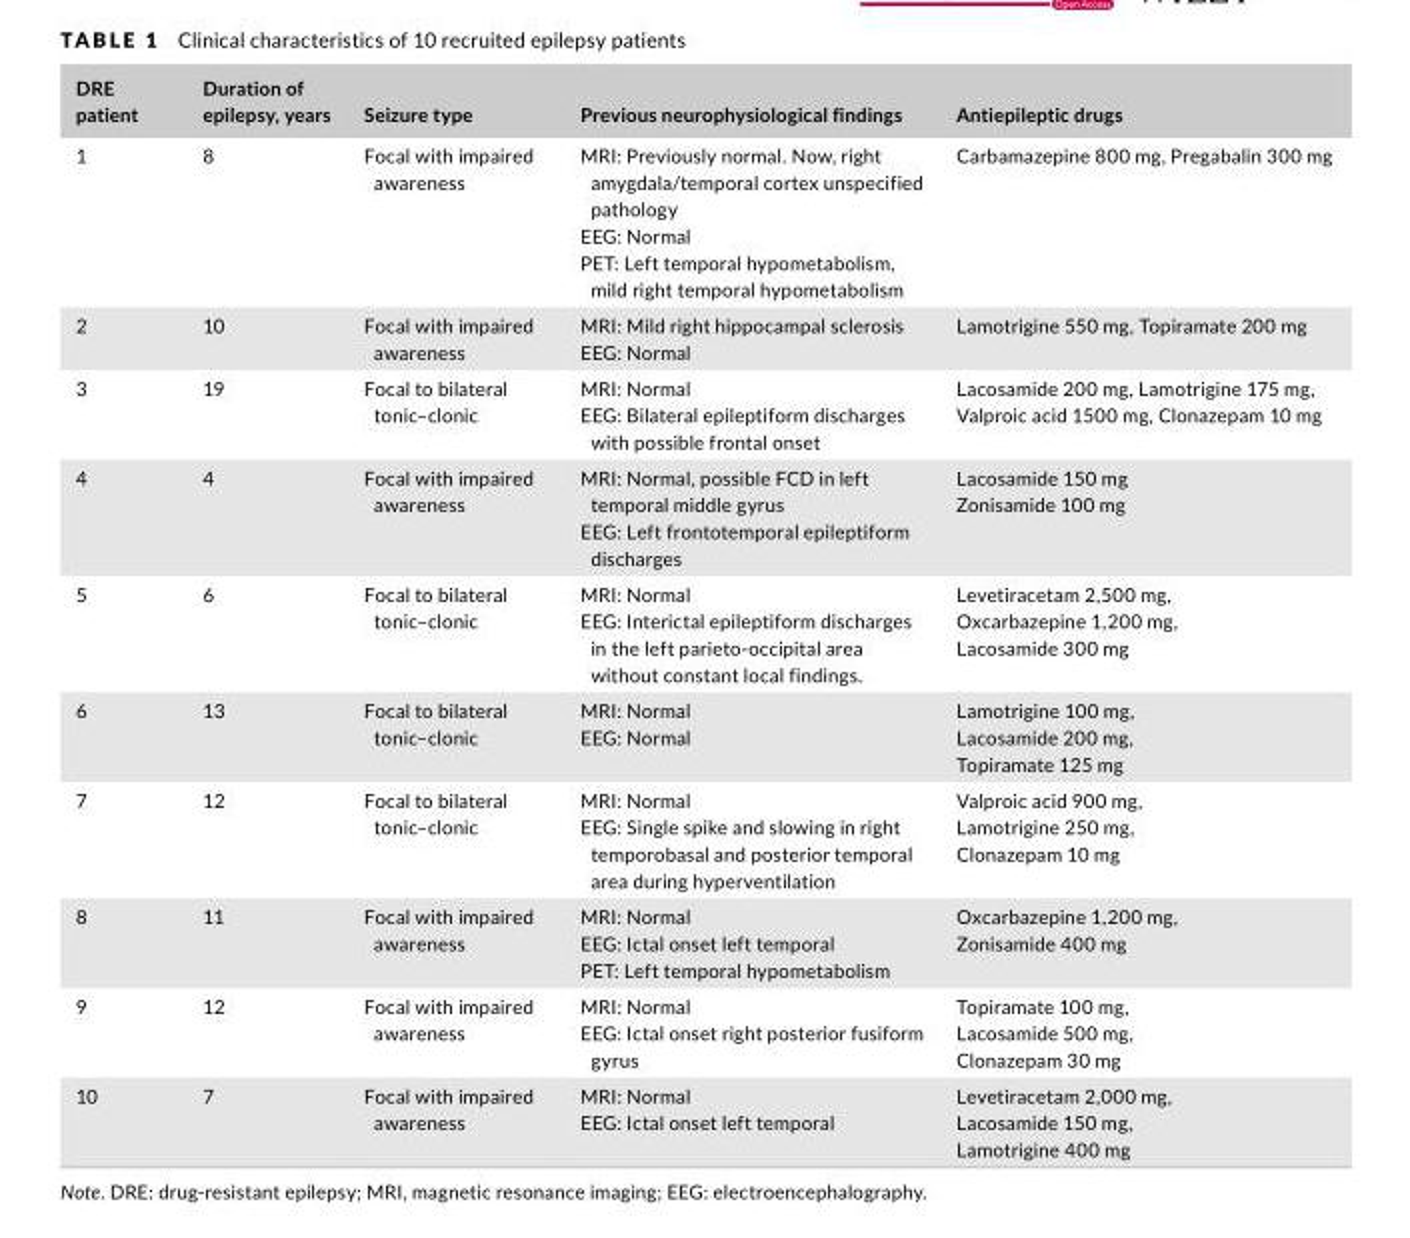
<table><thead><tr><td>DRE patient</td><td>Duration of epilepsy, years</td><td>Seizure type</td><td>Previous neurophysiological findings</td><td>Antiepileptic drugs</td></tr></thead><tbody><tr><td>1</td><td>8</td><td>Focal with impaired awareness</td><td>MRI: Previously normal. Now, right amygdala/temporal cortex unspecified pathology EEG: Normal PET: Left temporal hypometabolism, mild right temporal hypometabolism</td><td>Carbamazepine 800 mg, Pregabalin 300 mg</td></tr><tr><td>2</td><td>10</td><td>Focal with impaired awareness</td><td>MRI: Mild right hippocampal sclerosis EEG: Normal</td><td>Lamotrigine 550 mg, Topiramate 200 mg</td></tr><tr><td>3</td><td>19</td><td>Focal to bilateral tonic–clonic</td><td>MRI: Normal EEG: Bilateral epileptiform discharges with possible frontal onset</td><td>Lacosamide 200 mg, Lamotrigine 175 mg, Valproic acid 1500 mg, Clonazepam 10 mg</td></tr><tr><td>4</td><td>4</td><td>Focal with impaired awareness</td><td>MRI: Normal, possible FCD in left temporal middle gyrus EEG: Left frontotemporal epileptiform discharges</td><td>Lacosamide 150 mg Zonisamide 100 mg</td></tr><tr><td>5</td><td>6</td><td>Focal to bilateral tonic–clonic</td><td>MRI: Normal EEG: Interictal epileptiform discharges in the left parieto- occipital area without constant local findings.</td><td>Levetiracetam 2,500 mg, Oxcarbazepine 1,200 mg, Lacosamide 300 mg</td></tr><tr><td>6</td><td>13</td><td>Focal to bilateral tonic–clonic</td><td>MRI: Normal EEG: Normal</td><td>Lamotrigine 100 mg, Lacosamide 200 mg, Topiramate 125 mg</td></tr><tr><td>7</td><td>12</td><td>Focal to bilateral tonic–clonic</td><td>MRI: Normal EEG: Single spike and slowing in right temporobasal and posterior temporal area during hyperventilation</td><td>Valproic acid 900 mg, Lamotrigine 250 mg, Clonazepam 10 mg</td></tr><tr><td>8</td><td>11</td><td>Focal with impaired awareness</td><td>MRI: Normal EEG: Ictal onset left temporal PET: Left temporal hypometabolism</td><td>Oxcarbazepine 1,200 mg, Zonisamide 400 mg</td></tr><tr><td>9</td><td>12</td><td>Focal with impaired awareness</td><td>MRI: Normal EEG: Ictal onset right posterior fusiform gyrus</td><td>Topiramate 100 mg, Lacosamide 500 mg, Clonazepam 30 mg</td></tr><tr><td>10</td><td>7</td><td>Focal with impaired awareness</td><td>MRI: Normal EEG: Ictal onset left temporal</td><td>Levetiracetam 2,000 mg, Lacosamide 150 mg, Lamotrigine 400 mg</td></tr></tbody></table>